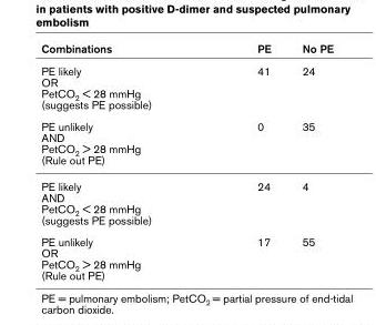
<table><thead><tr><td>Combinations</td><td>PE</td><td>No PE</td></tr></thead><tbody><tr><td>PE likely OR PetCO<sub>2</sub> &lt; 28 mmHg (suggests PE possible)</td><td>41</td><td>24</td></tr><tr><td>PE unlikely AND PetCO<sub>2</sub> &gt; 28 mmHg (Rule out PE)</td><td>0</td><td>35</td></tr><tr><td>PE likely AND PetCO<sub>2</sub> &lt; 28 mmHg (suggests PE possible)</td><td>24</td><td>4</td></tr><tr><td>PE unlikely OR PetCO<sub>2</sub> &gt; 28 mmHg (Rule out PE)</td><td>17</td><td>55</td></tr></tbody></table>